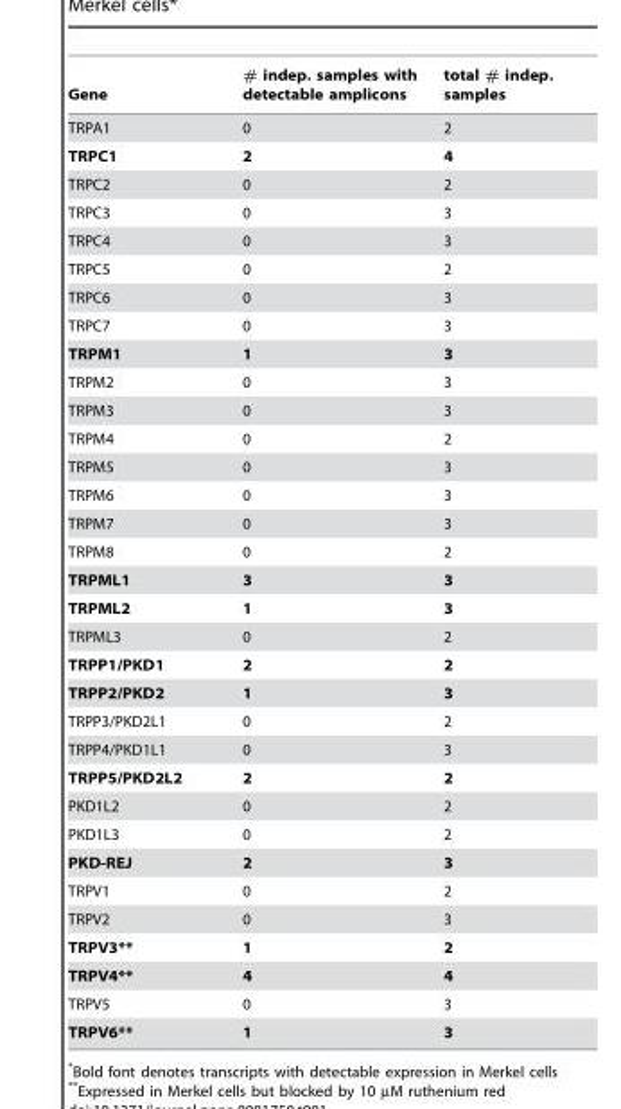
<table><thead><tr><td>Gene</td><td># indep. samples with detectable amplicons</td><td>total # indep. samples</td></tr></thead><tbody><tr><td>TRPA1</td><td>0</td><td>2</td></tr><tr><td>TRPC1</td><td>2</td><td>4</td></tr><tr><td>TRPC2</td><td>0</td><td>2</td></tr><tr><td>TRPC3</td><td>0</td><td>3</td></tr><tr><td>TRPC4</td><td>0</td><td>3</td></tr><tr><td>TRPC5</td><td>0</td><td>2</td></tr><tr><td>TRPC6</td><td>0</td><td>3</td></tr><tr><td>TRPC7</td><td>0</td><td>3</td></tr><tr><td>TRPM1</td><td>1</td><td>3</td></tr><tr><td>TRPM2</td><td>0</td><td>3</td></tr><tr><td>TRPM3</td><td>0</td><td>3</td></tr><tr><td>TRPM4</td><td>0</td><td>2</td></tr><tr><td>TRPM5</td><td>0</td><td>3</td></tr><tr><td>TRPM6</td><td>0</td><td>3</td></tr><tr><td>TRPM7</td><td>0</td><td>3</td></tr><tr><td>TRPM8</td><td>0</td><td>2</td></tr><tr><td>TRPML1</td><td>3</td><td>3</td></tr><tr><td>TRPML2</td><td>1</td><td>3</td></tr><tr><td>TRPML3</td><td>0</td><td>2</td></tr><tr><td>TRPP1/PKD1</td><td>2</td><td>2</td></tr><tr><td>TRPP2/PKD2</td><td>1</td><td>3</td></tr><tr><td>TRPP3/PKD2L1</td><td>0</td><td>2</td></tr><tr><td>TRPP4/PKD1L1</td><td>0</td><td>3</td></tr><tr><td>TRPP5/PKD2L2</td><td>2</td><td>2</td></tr><tr><td>PKD1L2</td><td>0</td><td>2</td></tr><tr><td>PKD1L3</td><td>0</td><td>2</td></tr><tr><td>PKD-REJ</td><td>2</td><td>3</td></tr><tr><td>TRPV1</td><td>0</td><td>2</td></tr><tr><td>TRPV2</td><td>0</td><td>3</td></tr><tr><td>TRPV3**</td><td>1</td><td>2</td></tr><tr><td>TRPV4**</td><td>4</td><td>4</td></tr><tr><td>TRPV5</td><td>0</td><td>3</td></tr><tr><td>TRPV6**</td><td>1</td><td>3</td></tr></tbody></table>